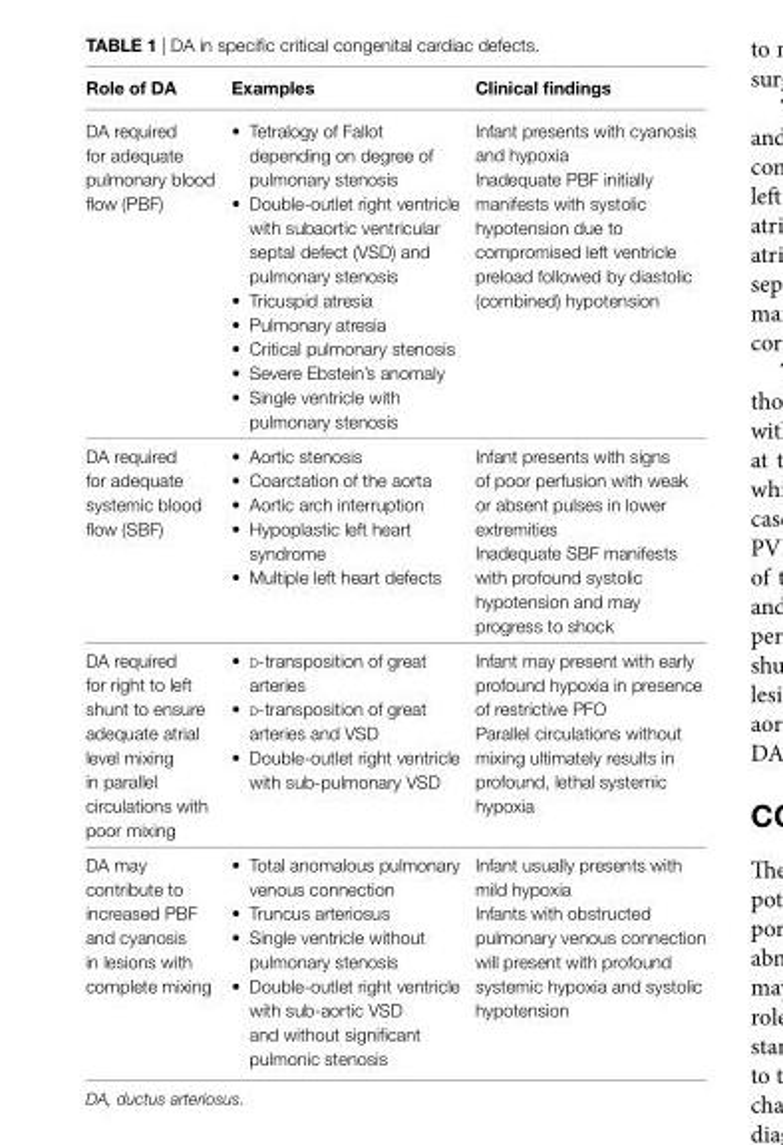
<table><thead><tr><td>Role of DA</td><td>examples</td><td>Clinical findings</td></tr></thead><tbody><tr><td>DA required for adequate pulmonary blood flow (PBF)</td><td>• Tetralogy of Fallot depending on degree of pulmonary stenosis • Double-outlet right ventricle with subaortic ventricular septal defect (VSD) and pulmonary stenosis • Tricuspid atresia • Pulmonary atresia • Critical pulmonary stenosis • Severe Ebstein’s anomaly • Single ventricle with pulmonary stenosis</td><td>Infant presents with cyanosis and hypoxia Inadequate PBF initially manifests with systolic hypotension due to compromised left ventricle preload followed by diastolic (combined) hypotension</td></tr><tr><td>DA required for adequate systemic blood flow (SBF)</td><td>• Aortic stenosis • Coarctation of the aorta • Aortic arch interruption • Hypoplastic left heart syndrome • Multiple left heart defects</td><td>Infant presents with signs of poor perfusion with weak or absent pulses in lower extremities Inadequate SBF manifests with profound systolic hypotension and may progress to shock</td></tr><tr><td>DA required for right to left shunt to ensure adequate atrial level mixing in parallel circulations with poor mixing</td><td>• d-transposition of great arteries • d-transposition of great arteries and VSD • Double-outlet right ventricle with sub-pulmonary VSD</td><td>Infant may present with early profound hypoxia in presence of restrictive PFO Parallel circulations without mixing ultimately results in profound, lethal systemic hypoxia</td></tr><tr><td>DA may contribute to increased PBF and cyanosis in lesions with complete mixing</td><td>• Total anomalous pulmonary venous connection • Truncus arteriosus • Single ventricle without pulmonary stenosis • Double-outlet right ventricle with sub-aortic VSD and without significant pulmonic stenosis</td><td>Infant usually presents with mild hypoxia Infants with obstructed pulmonary venous connection will present with profound systemic hypoxia and systolic hypotension</td></tr></tbody></table>